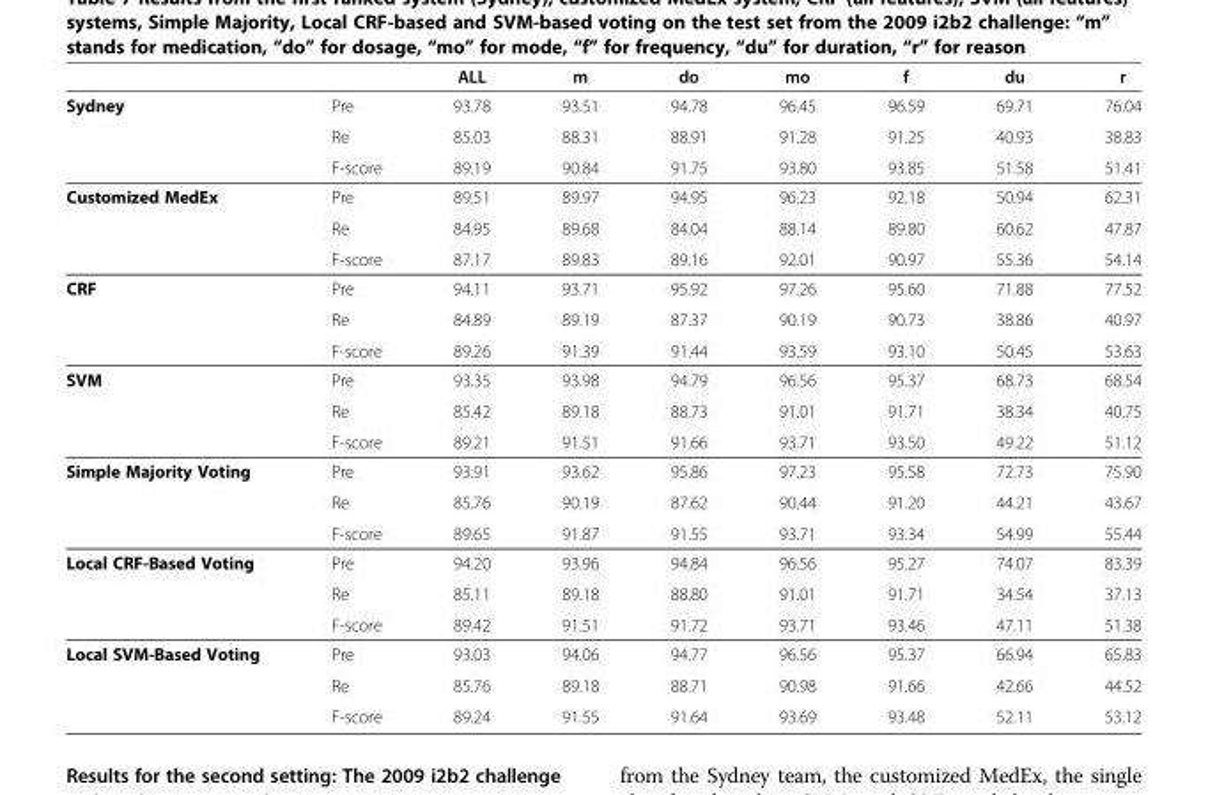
<table><thead><tr><td></td><td></td><td>ALL</td><td>m</td><td>do</td><td>mo</td><td>f</td><td>du</td><td>r</td></tr></thead><tbody><tr><td rowspan="3">Sydney</td><td>Pre</td><td>93.78</td><td>93.51</td><td>94.78</td><td>96.45</td><td>96.59</td><td>69.71</td><td>76.04</td></tr><tr><td>Re</td><td>85.03</td><td>88.31</td><td>88.91</td><td>91.28</td><td>91.25</td><td>40.93</td><td>38.83</td></tr><tr><td>F-score</td><td>89.19</td><td>90.84</td><td>91.75</td><td>93.80</td><td>93.85</td><td>51.58</td><td>51.41</td></tr><tr><td rowspan="3">Customized MedEx</td><td>Pre</td><td>89.51</td><td>89.97</td><td>94.95</td><td>96.23</td><td>92.18</td><td>50.94</td><td>62.31</td></tr><tr><td>Re</td><td>84.95</td><td>89.68</td><td>84.04</td><td>88.14</td><td>89.80</td><td>60.62</td><td>47.87</td></tr><tr><td>F-score</td><td>87.17</td><td>89.83</td><td>89.16</td><td>92.01</td><td>90.97</td><td>55.36</td><td>54.14</td></tr><tr><td rowspan="3">CRF</td><td>Pre</td><td>94.11</td><td>93.71</td><td>95.92</td><td>97.26</td><td>95.60</td><td>71.88</td><td>77.52</td></tr><tr><td>Re</td><td>84.89</td><td>89.19</td><td>87.37</td><td>90.19</td><td>90.73</td><td>38.86</td><td>40.97</td></tr><tr><td>F-score</td><td>89.26</td><td>91.39</td><td>91.44</td><td>93.59</td><td>93.10</td><td>50.45</td><td>53.63</td></tr><tr><td rowspan="3">SVM</td><td>Pre</td><td>93.35</td><td>93.98</td><td>94.79</td><td>96.56</td><td>95.37</td><td>68.73</td><td>68.54</td></tr><tr><td>Re</td><td>85.42</td><td>89.18</td><td>88.73</td><td>91.01</td><td>91.71</td><td>38.34</td><td>40.75</td></tr><tr><td>F-score</td><td>89.21</td><td>91.51</td><td>91.66</td><td>93.71</td><td>93.50</td><td>49.22</td><td>51.12</td></tr><tr><td rowspan="3">Simple Majority Voting</td><td>Pre</td><td>93.91</td><td>93.62</td><td>95.86</td><td>97.23</td><td>95.58</td><td>72.73</td><td>75.90</td></tr><tr><td>Re</td><td>85.76</td><td>90.19</td><td>87.62</td><td>90.44</td><td>91.20</td><td>44.21</td><td>43.67</td></tr><tr><td>F-score</td><td>89.65</td><td>91.87</td><td>91.55</td><td>93.71</td><td>93.34</td><td>54.99</td><td>55.44</td></tr><tr><td rowspan="3">Local CRF-Based Voting</td><td>Pre</td><td>94.20</td><td>93.96</td><td>94.84</td><td>96.56</td><td>95.27</td><td>74.07</td><td>83.39</td></tr><tr><td>Re</td><td>85.11</td><td>89.18</td><td>88.80</td><td>91.01</td><td>91.71</td><td>34.54</td><td>37.13</td></tr><tr><td>F-score</td><td>89.42</td><td>91.51</td><td>91.72</td><td>93.71</td><td>93.46</td><td>47.11</td><td>51.38</td></tr><tr><td rowspan="3">Local SVM-Based Voting</td><td>Pre</td><td>93.03</td><td>94.06</td><td>94.77</td><td>96.56</td><td>95.37</td><td>66.94</td><td>65.83</td></tr><tr><td>Re</td><td>85.76</td><td>89.18</td><td>88.71</td><td>90.98</td><td>91.66</td><td>42.66</td><td>44.52</td></tr><tr><td>F-score</td><td>89.24</td><td>91.55</td><td>91.64</td><td>93.69</td><td>93.48</td><td>52.11</td><td>53.12</td></tr></tbody></table>